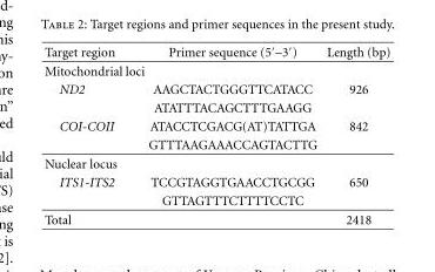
<table><thead><tr><td>Target region</td><td>Primer sequence (5′–3′)</td><td>Length (bp)</td></tr></thead><tbody><tr><td colspan="3">Mitochondrial loci</td></tr><tr><td rowspan="2">ND2</td><td>AAGCTACTGGGTTCATACC</td><td>926</td></tr><tr><td>ATATTTACAGCTTTGAAGG</td><td></td></tr><tr><td rowspan="2">COI-COII</td><td>ATACCTCGACG(AT)TATTGA</td><td>842</td></tr><tr><td>GTTTAAGAAACCAGTACTTG</td><td></td></tr><tr><td colspan="3">Nuclear locus</td></tr><tr><td rowspan="2">ITS1-ITS2</td><td>TCCGTAGGTGAACCTGCGG</td><td>650</td></tr><tr><td>GTTAGTTTCTTTTCCTC</td><td></td></tr><tr><td>Total</td><td></td><td>2418</td></tr></tbody></table>